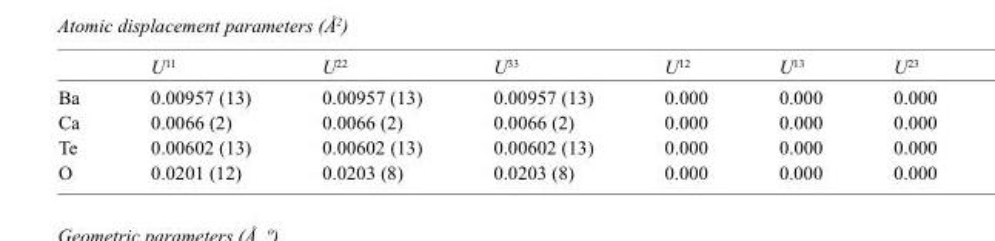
<table><thead><tr><td></td><td>U<sup>11</sup></td><td>U<sup>22</sup></td><td>U<sup>33</sup></td><td>U<sup>12</sup></td><td>U<sup>13</sup></td><td>U<sup>23</sup></td></tr></thead><tbody><tr><td>Ba</td><td>0.00957 (13)</td><td>0.00957 (13)</td><td>0.00957 (13)</td><td>0.000</td><td>0.000</td><td>0.000</td></tr><tr><td>Ca</td><td>0.0066 (2)</td><td>0.0066 (2)</td><td>0.0066 (2)</td><td>0.000</td><td>0.000</td><td>0.000</td></tr><tr><td>Te</td><td>0.00602 (13)</td><td>0.00602 (13)</td><td>0.00602 (13)</td><td>0.000</td><td>0.000</td><td>0.000</td></tr><tr><td>O</td><td>0.0201 (12)</td><td>0.0203 (8)</td><td>0.0203 (8)</td><td>0.000</td><td>0.000</td><td>0.000</td></tr></tbody></table>